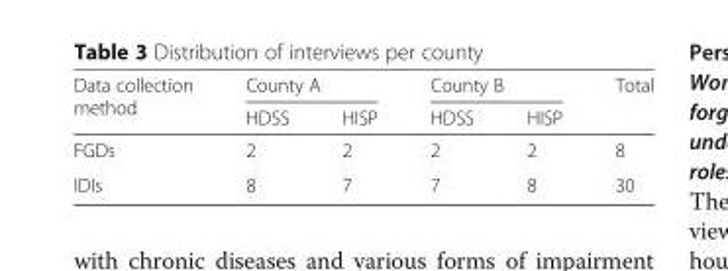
<table><thead><tr><td rowspan="2">Data collection method</td><td colspan="2">County A</td><td colspan="2">County B</td><td rowspan="2">Total</td></tr><tr><td>HDSS</td><td>HISP</td><td>HDSS</td><td>HISP</td></tr></thead><tbody><tr><td>FGDs</td><td>2</td><td>2</td><td>2</td><td>2</td><td>8</td></tr><tr><td>IDIs</td><td>8</td><td>7</td><td>7</td><td>8</td><td>30</td></tr></tbody></table>